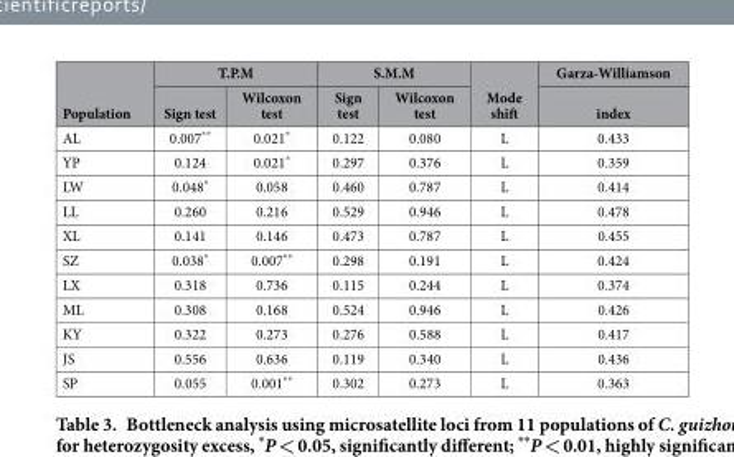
<table><thead><tr><td rowspan="2">Population</td><td colspan="2">T.P.M</td><td colspan="2">S.M.M</td><td rowspan="2">Mode shift</td><td rowspan="2">Garza-Williamson index</td></tr><tr><td>Sign test</td><td>Wilcoxon test</td><td>Sign test</td><td>Wilcoxon test</td></tr></thead><tbody><tr><td>AL</td><td>0.007**</td><td>0.021*</td><td>0.122</td><td>0.080</td><td>L</td><td>0.433</td></tr><tr><td>YP</td><td>0.124</td><td>0.021*</td><td>0.297</td><td>0.376</td><td>L</td><td>0.359</td></tr><tr><td>LW</td><td>0.048*</td><td>0.058</td><td>0.460</td><td>0.787</td><td>L</td><td>0.414</td></tr><tr><td>LL</td><td>0.260</td><td>0.216</td><td>0.529</td><td>0.946</td><td>L</td><td>0.478</td></tr><tr><td>XL</td><td>0.141</td><td>0.146</td><td>0.473</td><td>0.787</td><td>L</td><td>0.455</td></tr><tr><td>SZ</td><td>0.038*</td><td>0.007**</td><td>0.298</td><td>0.191</td><td>L</td><td>0.424</td></tr><tr><td>LX</td><td>0.318</td><td>0.736</td><td>0.115</td><td>0.244</td><td>L</td><td>0.374</td></tr><tr><td>ML</td><td>0.308</td><td>0.168</td><td>0.524</td><td>0.946</td><td>L</td><td>0.426</td></tr><tr><td>KY</td><td>0.322</td><td>0.273</td><td>0.276</td><td>0.588</td><td>L</td><td>0.417</td></tr><tr><td>JS</td><td>0.556</td><td>0.636</td><td>0.119</td><td>0.340</td><td>L</td><td>0.436</td></tr><tr><td>SP</td><td>0.055</td><td>0.001**</td><td>0.302</td><td>0.273</td><td>L</td><td>0.363</td></tr></tbody></table>